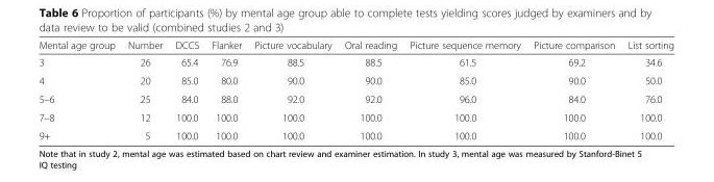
<table><thead><tr><td>Mental age group</td><td>Number</td><td>DCCS</td><td>Flanker</td><td>Picture vocabulary</td><td>Oral reading</td><td>Picture sequence memory</td><td>Picture comparison</td><td>List sorting</td></tr></thead><tbody><tr><td>3</td><td>26</td><td>65.4</td><td>76.9</td><td>88.5</td><td>88.5</td><td>61.5</td><td>69.2</td><td>34.6</td></tr><tr><td>4</td><td>20</td><td>85.0</td><td>80.0</td><td>90.0</td><td>90.0</td><td>85.0</td><td>90.0</td><td>50.0</td></tr><tr><td>5–6</td><td>25</td><td>84.0</td><td>88.0</td><td>92.0</td><td>92.0</td><td>96.0</td><td>84.0</td><td>76.0</td></tr><tr><td>7–8</td><td>12</td><td>100.0</td><td>100.0</td><td>100.0</td><td>100.0</td><td>100.0</td><td>100.0</td><td>100.0</td></tr><tr><td>9+</td><td>5</td><td>100.0</td><td>100.0</td><td>100.0</td><td>100.0</td><td>100.0</td><td>100.0</td><td>100.0</td></tr></tbody></table>